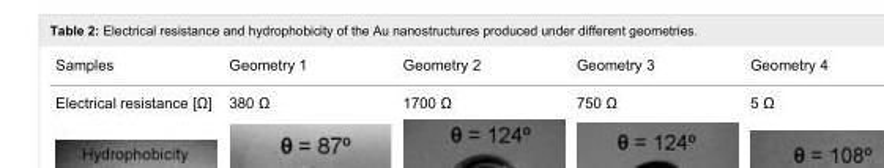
<table><tbody><tr><td>Samples</td><td>Geometry 1</td><td>Geometry 2</td><td>Geometry 3</td><td>Geometry 4</td></tr><tr><td>Electrical resistance [Ω]</td><td>380 Ω</td><td>1700 Ω</td><td>750 Ω</td><td>5 Ω</td></tr></tbody></table>